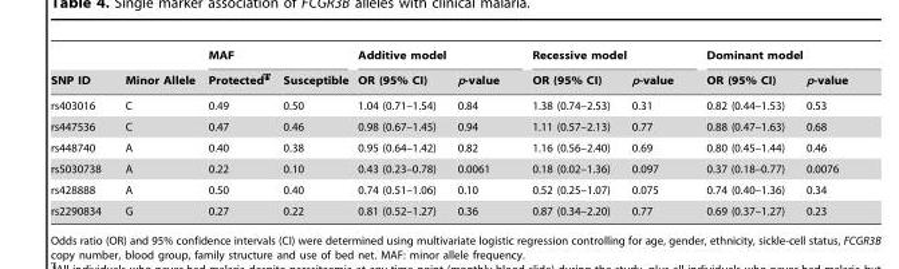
<table><thead><tr><td rowspan="2">SNP ID</td><td rowspan="2">Minor Allele</td><td colspan="2">MAF</td><td colspan="2">Additive model</td><td colspan="2">Recessive model</td><td colspan="2">Dominant model</td></tr><tr><td>Protected</td><td>Susceptible</td><td>OR (95% CI)</td><td>p-value</td><td>OR (95% CI)</td><td>p-value</td><td>OR (95% CI)</td><td>p-value</td></tr></thead><tbody><tr><td>rs403016</td><td>C</td><td>0.49</td><td>0.50</td><td>1.04 (0.71–1.54)</td><td>0.84</td><td>1.38 (0.74–2.53)</td><td>0.31</td><td>0.82 (0.44–1.53)</td><td>0.53</td></tr><tr><td>rs447536</td><td>C</td><td>0.47</td><td>0.46</td><td>0.98 (0.67–1.45)</td><td>0.94</td><td>1.11 (0.57–2.13)</td><td>0.77</td><td>0.88 (0.47–1.63)</td><td>0.68</td></tr><tr><td>rs448740</td><td>A</td><td>0.40</td><td>0.38</td><td>0.95 (0.64–1.42)</td><td>0.82</td><td>1.16 (0.56–2.40)</td><td>0.69</td><td>0.80 (0.45–1.44)</td><td>0.46</td></tr><tr><td>rs5030738</td><td>A</td><td>0.22</td><td>0.10</td><td>0.43 (0.23–0.78)</td><td>0.0061</td><td>0.18 (0.02–1.36)</td><td>0.097</td><td>0.37 (0.18–0.77)</td><td>0.0076</td></tr><tr><td>rs428888</td><td>A</td><td>0.50</td><td>0.40</td><td>0.74 (0.51–1.06)</td><td>0.10</td><td>0.52 (0.25–1.07)</td><td>0.075</td><td>0.74 (0.40–1.36)</td><td>0.34</td></tr><tr><td>rs2290834</td><td>G</td><td>0.27</td><td>0.22</td><td>0.81 (0.52–1.27)</td><td>0.36</td><td>0.87 (0.34–2.20)</td><td>0.77</td><td>0.69 (0.37–1.27)</td><td>0.23</td></tr></tbody></table>